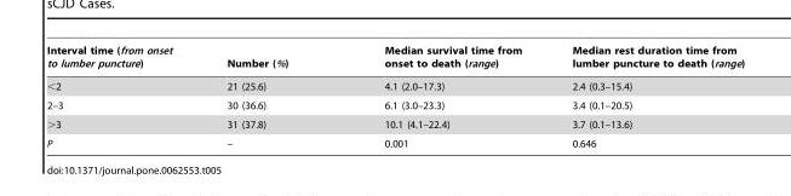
<table><thead><tr><td>Interval time (from onset to lumber puncture)</td><td>Number (%)</td><td>Median survival time from onset to death (range)</td><td>Median rest duration time from lumber puncture to death (range)</td></tr></thead><tbody><tr><td>&lt;2</td><td>21 (25.6)</td><td>4.1 (2.0–17.3)</td><td>2.4 (0.3–15.4)</td></tr><tr><td>2–3</td><td>30 (36.6)</td><td>6.1 (3.0–23.3)</td><td>3.4 (0.1–20.5)</td></tr><tr><td>&gt;3</td><td>31 (37.8)</td><td>10.1 (4.1–22.4)</td><td>3.7 (0.1–13.6)</td></tr><tr><td>P</td><td>–</td><td>0.001</td><td>0.646</td></tr></tbody></table>